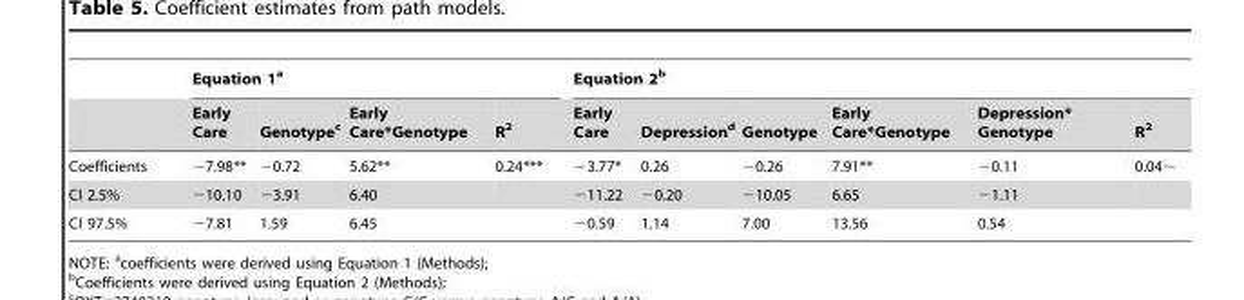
<table><thead><tr><td rowspan="2"></td><td colspan="4">Equation 1<sup>a</sup></td><td colspan="6">Equation 2b</td></tr><tr><td>Early Care</td><td>Genotype<sup>c</sup></td><td>Early Care*Genotype</td><td>R<sup>2</sup></td><td>Early Care</td><td>Depression<sup>d</sup></td><td>Genotype</td><td>Early Care*Genotype</td><td>Depression* Genotype</td><td>R<sup>2</sup></td></tr></thead><tbody><tr><td>Coefficients</td><td>−7.98**</td><td>−0.72</td><td>5.62**</td><td>0.24***</td><td>−3.77*</td><td>0.26</td><td>−0.26</td><td>7.91**</td><td>−0.11</td><td>0.04∼</td></tr><tr><td>CI 2.5%</td><td>−10.10</td><td>−3.91</td><td>6.40</td><td></td><td>−11.22</td><td>−0.20</td><td>−10.05</td><td>6.65</td><td>−1.11</td><td></td></tr><tr><td>CI 97.5%</td><td>−7.81</td><td>1.59</td><td>6.45</td><td></td><td>−0.59</td><td>1.14</td><td>7.00</td><td>13.56</td><td>0.54</td><td></td></tr></tbody></table>